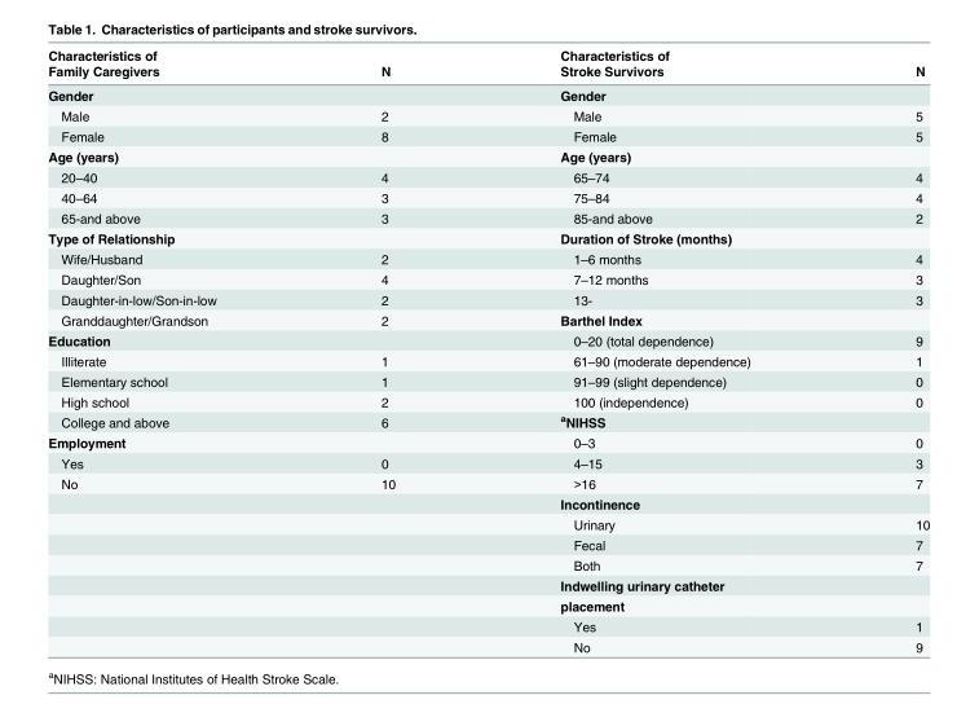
<table><thead><tr><td rowspan="2">Characteristics of Family Caregivers</td><td rowspan="2">N</td><td rowspan="2">Characteristics of Stroke Survivors</td><td rowspan="2">N</td></tr><tr></tr></thead><tbody><tr><td>Gender</td><td></td><td>Gender</td><td></td></tr><tr><td>Male</td><td>2</td><td>Male</td><td>5</td></tr><tr><td>Female</td><td>8</td><td>Female</td><td>5</td></tr><tr><td>Age (years)</td><td></td><td>Age (years)</td><td></td></tr><tr><td>20–40</td><td>4</td><td>65–74</td><td>4</td></tr><tr><td>40–64</td><td>3</td><td>75–84</td><td>4</td></tr><tr><td>65-and above</td><td>3</td><td>85-and above</td><td>2</td></tr><tr><td>Type of Relationship</td><td></td><td>Duration of Stroke (months)</td><td></td></tr><tr><td>Wife/Husband</td><td>2</td><td>1–6 months</td><td>4</td></tr><tr><td>Daughter/Son</td><td>4</td><td>7–12 months</td><td>3</td></tr><tr><td>Daughter-in-low/Son-in-low</td><td>2</td><td>13-</td><td>3</td></tr><tr><td>Granddaughter/Grandson</td><td>2</td><td>Barthel Index</td><td></td></tr><tr><td>Education</td><td></td><td>0–20 (total dependence)</td><td>9</td></tr><tr><td>Illiterate</td><td>1</td><td>61–90 (moderate dependence)</td><td>1</td></tr><tr><td>Elementary school</td><td>1</td><td>91–99 (slight dependence)</td><td>0</td></tr><tr><td>High school</td><td>2</td><td>100 (independence)</td><td>0</td></tr><tr><td>College and above</td><td>6</td><td><sup>a</sup>NIHSS</td><td></td></tr><tr><td>Employment</td><td></td><td>0–3</td><td>0</td></tr><tr><td>Yes</td><td>0</td><td>4–15</td><td>3</td></tr><tr><td rowspan="9">No</td><td>10</td><td>&gt;16</td><td>7</td></tr><tr><td></td><td>Incontinence</td><td></td></tr><tr><td></td><td>Urinary</td><td>10</td></tr><tr><td></td><td>Fecal</td><td>7</td></tr><tr><td></td><td>Both</td><td>7</td></tr><tr><td></td><td>Indwelling urinary catheter</td><td></td></tr><tr><td></td><td>placement</td><td></td></tr><tr><td></td><td>Yes</td><td>1</td></tr><tr><td></td><td>No</td><td>9</td></tr></tbody></table>